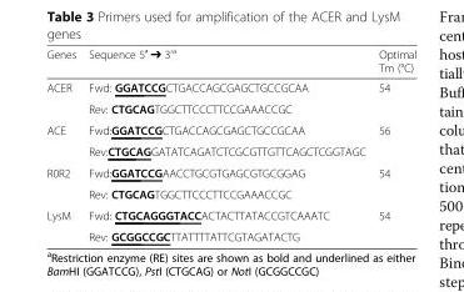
<table><thead><tr><td>Genes</td><td>Sequence 5′ ➔ 3’<sup>a</sup></td><td>Optimal Tm (°C)</td></tr></thead><tbody><tr><td rowspan="2">ACER</td><td>Fwd: GGATCCGCTGACCAGCGAGCTGCCGCAA</td><td rowspan="2">54</td></tr><tr><td>Rev: CTGCAGTGGCTTCCCTTCCGAAACCGC</td></tr><tr><td rowspan="2">ACE</td><td>Fwd:GGATCCGCTGACCAGCGAGCTGCCGCAA</td><td rowspan="2">56</td></tr><tr><td>Rev:CTGCAGGATATCAGATCTCGCGTTGTTCAGCTCGGTAGC</td></tr><tr><td rowspan="2">R0R2</td><td>Fwd:GGATCCGAACCTGCGTGAGCGTGCGGAG</td><td rowspan="2">54</td></tr><tr><td>Rev: CTGCAGTGGCTTCCCTTCCGAAACCGC</td></tr><tr><td rowspan="2">LysM</td><td>Fwd: CTGCAGGGTACCACTACTTATACCGTCAAATC</td><td rowspan="2">54</td></tr><tr><td>Rev: GCGGCCGCTTATTTTATTCGTAGATACTG</td></tr></tbody></table>